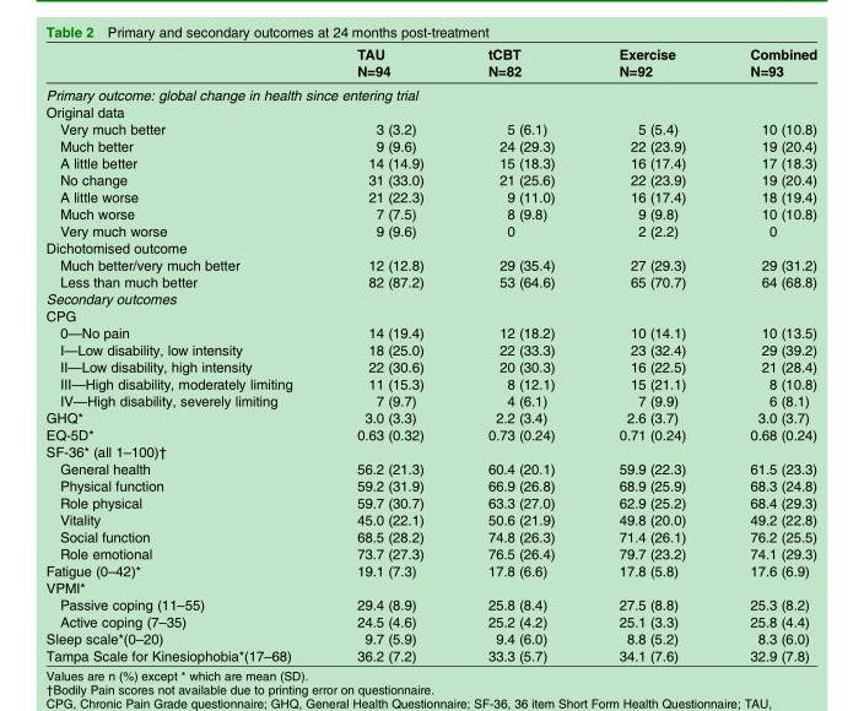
<table><thead><tr><td></td><td>TAU N=94</td><td>tCBT N=82</td><td>Exercise N=92</td><td>Combined N=93</td></tr></thead><tbody><tr><td colspan="5">Primary outcome: global change in health since entering trial</td></tr><tr><td colspan="5">Original data</td></tr><tr><td>Very much better</td><td>3 (3.2)</td><td>5 (6.1)</td><td>5 (5.4)</td><td>10 (10.8)</td></tr><tr><td>Much better</td><td>9 (9.6)</td><td>24 (29.3)</td><td>22 (23.9)</td><td>19 (20.4)</td></tr><tr><td>A little better</td><td>14 (14.9)</td><td>15 (18.3)</td><td>16 (17.4)</td><td>17 (18.3)</td></tr><tr><td>No change</td><td>31 (33.0)</td><td>21 (25.6)</td><td>22 (23.9)</td><td>19 (20.4)</td></tr><tr><td>A little worse</td><td>21 (22.3)</td><td>9 (11.0)</td><td>16 (17.4)</td><td>18 (19.4)</td></tr><tr><td>Much worse</td><td>7 (7.5)</td><td>8 (9.8)</td><td>9 (9.8)</td><td>10 (10.8)</td></tr><tr><td>Very much worse</td><td>9 (9.6)</td><td>0</td><td>2 (2.2)</td><td>0</td></tr><tr><td colspan="5">Dichotomised outcome</td></tr><tr><td>Much better/very much better</td><td>12 (12.8)</td><td>29 (35.4)</td><td>27 (29.3)</td><td>29 (31.2)</td></tr><tr><td>Less than much better</td><td>82 (87.2)</td><td>53 (64.6)</td><td>65 (70.7)</td><td>64 (68.8)</td></tr><tr><td colspan="5">Secondary outcomes</td></tr><tr><td colspan="5">CPG</td></tr><tr><td>0—No pain</td><td>14 (19.4)</td><td>12 (18.2)</td><td>10 (14.1)</td><td>10 (13.5)</td></tr><tr><td>I—Low disability, low intensity</td><td>18 (25.0)</td><td>22 (33.3)</td><td>23 (32.4)</td><td>29 (39.2)</td></tr><tr><td>II—Low disability, high intensity</td><td>22 (30.6)</td><td>20 (30.3)</td><td>16 (22.5)</td><td>21 (28.4)</td></tr><tr><td>III—High disability, moderately limiting</td><td>11 (15.3)</td><td>8 (12.1)</td><td>15 (21.1)</td><td>8 (10.8)</td></tr><tr><td>IV—High disability, severely limiting</td><td>7 (9.7)</td><td>4 (6.1)</td><td>7 (9.9)</td><td>6 (8.1)</td></tr><tr><td>GHQ*</td><td>3.0 (3.3)</td><td>2.2 (3.4)</td><td>2.6 (3.7)</td><td>3.0 (3.7)</td></tr><tr><td>EQ-5D*</td><td>0.63 (0.32)</td><td>0.73 (0.24)</td><td>0.71 (0.24)</td><td>0.68 (0.24)</td></tr><tr><td colspan="5">SF-36* (all 1–100)†</td></tr><tr><td>General health</td><td>56.2 (21.3)</td><td>60.4 (20.1)</td><td>59.9 (22.3)</td><td>61.5 (23.3)</td></tr><tr><td>Physical function</td><td>59.2 (31.9)</td><td>66.9 (26.8)</td><td>68.9 (25.9)</td><td>68.3 (24.8)</td></tr><tr><td>Role physical</td><td>59.7 (30.7)</td><td>63.3 (27.0)</td><td>62.9 (25.2)</td><td>68.4 (29.3)</td></tr><tr><td>Vitality</td><td>45.0 (22.1)</td><td>50.6 (21.9)</td><td>49.8 (20.0)</td><td>49.2 (22.8)</td></tr><tr><td>Social function</td><td>68.5 (28.2)</td><td>74.8 (26.3)</td><td>71.4 (26.1)</td><td>76.2 (25.5)</td></tr><tr><td>Role emotional</td><td>73.7 (27.3)</td><td>76.5 (26.4)</td><td>79.7 (23.2)</td><td>74.1 (29.3)</td></tr><tr><td>Fatigue (0–42)*</td><td>19.1 (7.3)</td><td>17.8 (6.6)</td><td>17.8 (5.8)</td><td>17.6 (6.9)</td></tr><tr><td colspan="5">VPMI*</td></tr><tr><td>Passive coping (11–55)</td><td>29.4 (8.9)</td><td>25.8 (8.4)</td><td>27.5 (8.8)</td><td>25.3 (8.2)</td></tr><tr><td>Active coping (7–35)</td><td>24.5 (4.6)</td><td>25.2 (4.2)</td><td>25.1 (3.3)</td><td>25.8 (4.4)</td></tr><tr><td>Sleep scale*(0–20)</td><td>9.7 (5.9)</td><td>9.4 (6.0)</td><td>8.8 (5.2)</td><td>8.3 (6.0)</td></tr><tr><td>Tampa Scale for Kinesiophobia*(17–68)</td><td>36.2 (7.2)</td><td>33.3 (5.7)</td><td>34.1 (7.6)</td><td>32.9 (7.8)</td></tr></tbody></table>